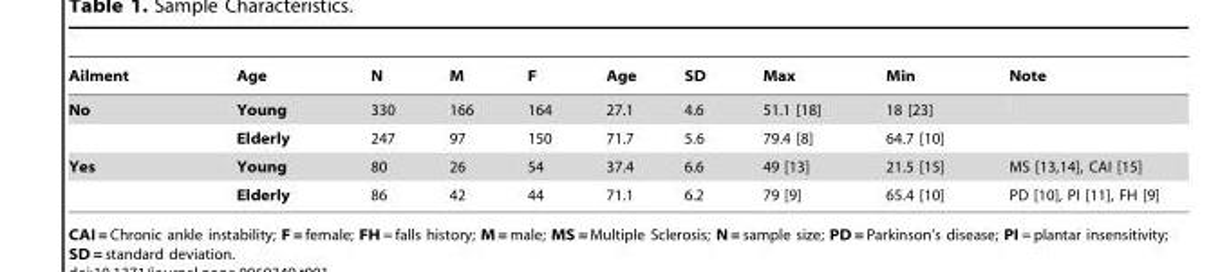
<table><thead><tr><td>Ailment</td><td>Age</td><td>N</td><td>M</td><td>F</td><td>Age</td><td>SD</td><td>Max</td><td>Min</td><td>Note</td></tr></thead><tbody><tr><td rowspan="2">No</td><td>Young</td><td>330</td><td>166</td><td>164</td><td>27.1</td><td>4.6</td><td>51.1 [18]</td><td>18 [23]</td><td></td></tr><tr><td>Elderly</td><td>247</td><td>97</td><td>150</td><td>71.7</td><td>5.6</td><td>79.4 [8]</td><td>64.7 [10]</td><td></td></tr><tr><td rowspan="2">Yes</td><td>Young</td><td>80</td><td>26</td><td>54</td><td>37.4</td><td>6.6</td><td>49 [13]</td><td>21.5 [15]</td><td>MS [13,14], CAI [15]</td></tr><tr><td>Elderly</td><td>86</td><td>42</td><td>44</td><td>71.1</td><td>6.2</td><td>79 [9]</td><td>65.4 [10]</td><td>PD [10], PI [11], FH [9]</td></tr></tbody></table>